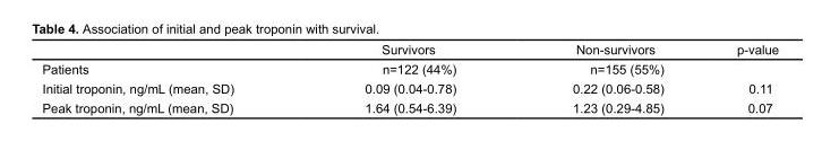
<table><thead><tr><td></td><td>Survivors</td><td>Non-survivors</td><td>p-value</td></tr></thead><tbody><tr><td>Patients</td><td>n=122 (44%)</td><td>n=155 (55%)</td><td></td></tr><tr><td>Initial troponin, ng/mL (mean, SD)</td><td>0.09 (0.04-0.78)</td><td>0.22 (0.06-0.58)</td><td>0.11</td></tr><tr><td>Peak troponin, ng/mL (mean, SD)</td><td>1.64 (0.54-6.39)</td><td>1.23 (0.29-4.85)</td><td>0.07</td></tr></tbody></table>